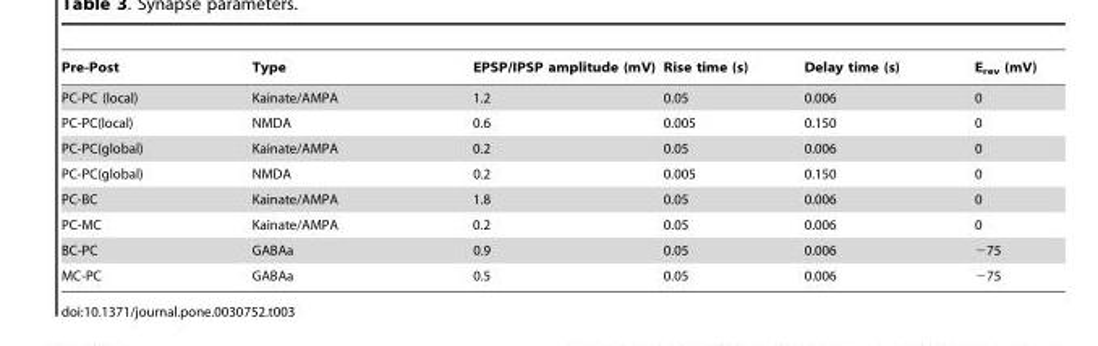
<table><thead><tr><td>Pre-Post</td><td>Type</td><td>EPSP/IPSP amplitude (mV)</td><td>Rise time (s)</td><td>Delay time (s)</td><td>E<sub>rev</sub> (mV)</td></tr></thead><tbody><tr><td>PC-PC (local)</td><td>Kainate/AMPA</td><td>1.2</td><td>0.05</td><td>0.006</td><td>0</td></tr><tr><td>PC-PC(local)</td><td>NMDA</td><td>0.6</td><td>0.005</td><td>0.150</td><td>0</td></tr><tr><td>PC-PC(global)</td><td>Kainate/AMPA</td><td>0.2</td><td>0.05</td><td>0.006</td><td>0</td></tr><tr><td>PC-PC(global)</td><td>NMDA</td><td>0.2</td><td>0.005</td><td>0.150</td><td>0</td></tr><tr><td>PC-BC</td><td>Kainate/AMPA</td><td>1.8</td><td>0.05</td><td>0.006</td><td>0</td></tr><tr><td>PC-MC</td><td>Kainate/AMPA</td><td>0.2</td><td>0.05</td><td>0.006</td><td>0</td></tr><tr><td>BC-PC</td><td>GABAa</td><td>0.9</td><td>0.05</td><td>0.006</td><td>−75</td></tr><tr><td>MC-PC</td><td>GABAa</td><td>0.5</td><td>0.05</td><td>0.006</td><td>−75</td></tr></tbody></table>